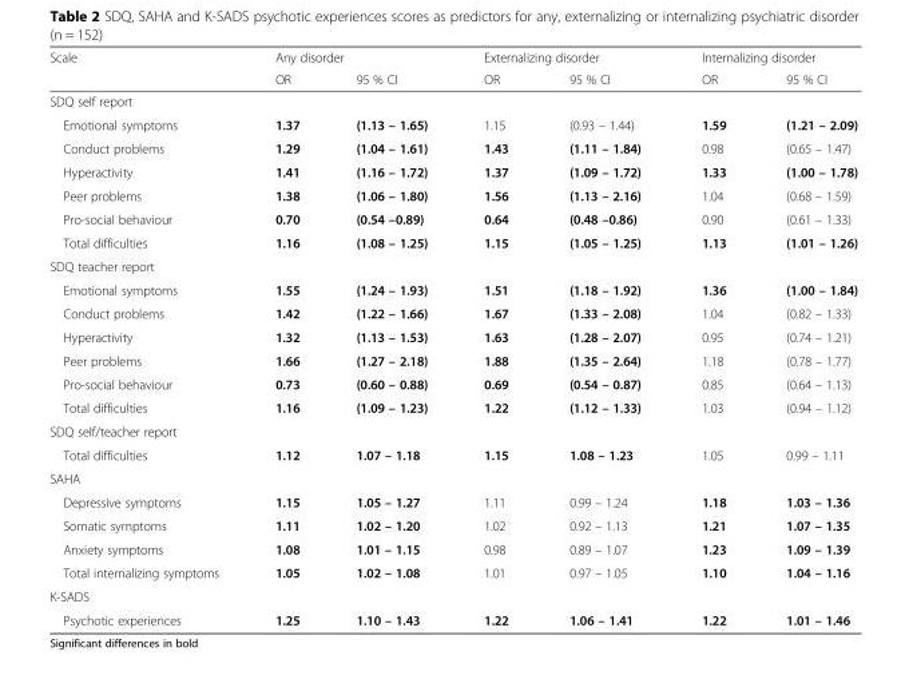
<table><thead><tr><td rowspan="2">Scale</td><td colspan="2">Any disorder</td><td colspan="2">Externalizing disorder</td><td colspan="2">Internalizing disorder</td></tr><tr><td>OR</td><td>95 % CI</td><td>OR</td><td>95 % CI</td><td>OR</td><td>95 % CI</td></tr></thead><tbody><tr><td colspan="7">SDQ self report</td></tr><tr><td>Emotional symptoms</td><td>1.37</td><td>(1.13 – 1.65)</td><td>1.15</td><td>(0.93 – 1.44)</td><td>1.59</td><td>(1.21 – 2.09)</td></tr><tr><td>Conduct problems</td><td>1.29</td><td>(1.04 – 1.61)</td><td>1.43</td><td>(1.11 – 1.84)</td><td>0.98</td><td>(0.65 – 1.47)</td></tr><tr><td>Hyperactivity</td><td>1.41</td><td>(1.16 – 1.72)</td><td>1.37</td><td>(1.09 – 1.72)</td><td>1.33</td><td>(1.00 – 1.78)</td></tr><tr><td>Peer problems</td><td>1.38</td><td>(1.06 – 1.80)</td><td>1.56</td><td>(1.13 – 2.16)</td><td>1.04</td><td>(0.68 – 1.59)</td></tr><tr><td>Pro-social behaviour</td><td>0.70</td><td>(0.54 –0.89)</td><td>0.64</td><td>(0.48 –0.86)</td><td>0.90</td><td>(0.61 – 1.33)</td></tr><tr><td>Total difficulties</td><td>1.16</td><td>(1.08 – 1.25)</td><td>1.15</td><td>(1.05 – 1.25)</td><td>1.13</td><td>(1.01 – 1.26)</td></tr><tr><td colspan="7">SDQ teacher report</td></tr><tr><td>Emotional symptoms</td><td>1.55</td><td>(1.24 – 1.93)</td><td>1.51</td><td>(1.18 – 1.92)</td><td>1.36</td><td>(1.00 – 1.84)</td></tr><tr><td>Conduct problems</td><td>1.42</td><td>(1.22 – 1.66)</td><td>1.67</td><td>(1.33 – 2.08)</td><td>1.04</td><td>(0.82 – 1.33)</td></tr><tr><td>Hyperactivity</td><td>1.32</td><td>(1.13 – 1.53)</td><td>1.63</td><td>(1.28 – 2.07)</td><td>0.95</td><td>(0.74 – 1.21)</td></tr><tr><td>Peer problems</td><td>1.66</td><td>(1.27 – 2.18)</td><td>1.88</td><td>(1.35 – 2.64)</td><td>1.18</td><td>(0.78 – 1.77)</td></tr><tr><td>Pro-social behaviour</td><td>0.73</td><td>(0.60 – 0.88)</td><td>0.69</td><td>(0.54 – 0.87)</td><td>0.85</td><td>(0.64 – 1.13)</td></tr><tr><td>Total difficulties</td><td>1.16</td><td>(1.09 – 1.23)</td><td>1.22</td><td>(1.12 – 1.33)</td><td>1.03</td><td>(0.94 – 1.12)</td></tr><tr><td colspan="7">SDQ self/teacher report</td></tr><tr><td>Total difficulties</td><td>1.12</td><td>1.07 – 1.18</td><td>1.15</td><td>1.08 – 1.23</td><td>1.05</td><td>0.99 – 1.11</td></tr><tr><td colspan="7">SAHA</td></tr><tr><td>Depressive symptoms</td><td>1.15</td><td>1.05 – 1.27</td><td>1.11</td><td>0.99 – 1.24</td><td>1.18</td><td>1.03 – 1.36</td></tr><tr><td>Somatic symptoms</td><td>1.11</td><td>1.02 – 1.20</td><td>1.02</td><td>0.92 – 1.13</td><td>1.21</td><td>1.07 – 1.35</td></tr><tr><td>Anxiety symptoms</td><td>1.08</td><td>1.01 – 1.15</td><td>0.98</td><td>0.89 – 1.07</td><td>1.23</td><td>1.09 – 1.39</td></tr><tr><td>Total internalizing symptoms</td><td>1.05</td><td>1.02 – 1.08</td><td>1.01</td><td>0.97 – 1.05</td><td>1.10</td><td>1.04 – 1.16</td></tr><tr><td colspan="7">K-SADS</td></tr><tr><td>Psychotic experiences</td><td>1.25</td><td>1.10 – 1.43</td><td>1.22</td><td>1.06 – 1.41</td><td>1.22</td><td>1.01 – 1.46</td></tr></tbody></table>